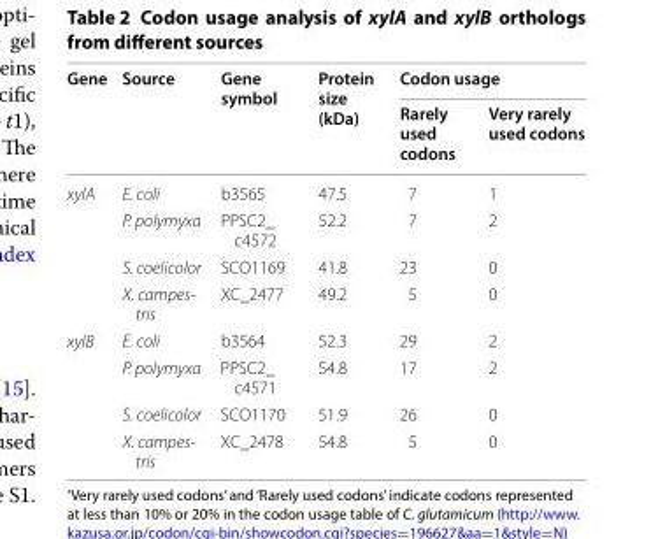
<table><thead><tr><td rowspan="2">Gene</td><td rowspan="2">Source</td><td rowspan="2">Gene symbol</td><td rowspan="2">Protein size (kDa)</td><td colspan="2">Codon usage</td></tr><tr><td>Rarely used codons</td><td>Very rarely used codons</td></tr></thead><tbody><tr><td rowspan="4">xylA</td><td>E. coli</td><td>b3565</td><td>47.5</td><td>7</td><td>1</td></tr><tr><td>P. polymyxa</td><td>PPSC2_ c4572</td><td>52.2</td><td>7</td><td>2</td></tr><tr><td>S. coelicolor</td><td>SCO1169</td><td>41.8</td><td>23</td><td>0</td></tr><tr><td>X. campes- tris</td><td>XC_2477</td><td>49.2</td><td>5</td><td>0</td></tr><tr><td rowspan="4">xylB</td><td>E. coli</td><td>b3564</td><td>52.3</td><td>29</td><td>2</td></tr><tr><td>P. polymyxa</td><td>PPSC2_ c4571</td><td>54.8</td><td>17</td><td>2</td></tr><tr><td>S. coelicolor</td><td>SCO1170</td><td>51.9</td><td>26</td><td>0</td></tr><tr><td>X. campes- tris</td><td>XC_2478</td><td>54.8</td><td>5</td><td>0</td></tr></tbody></table>